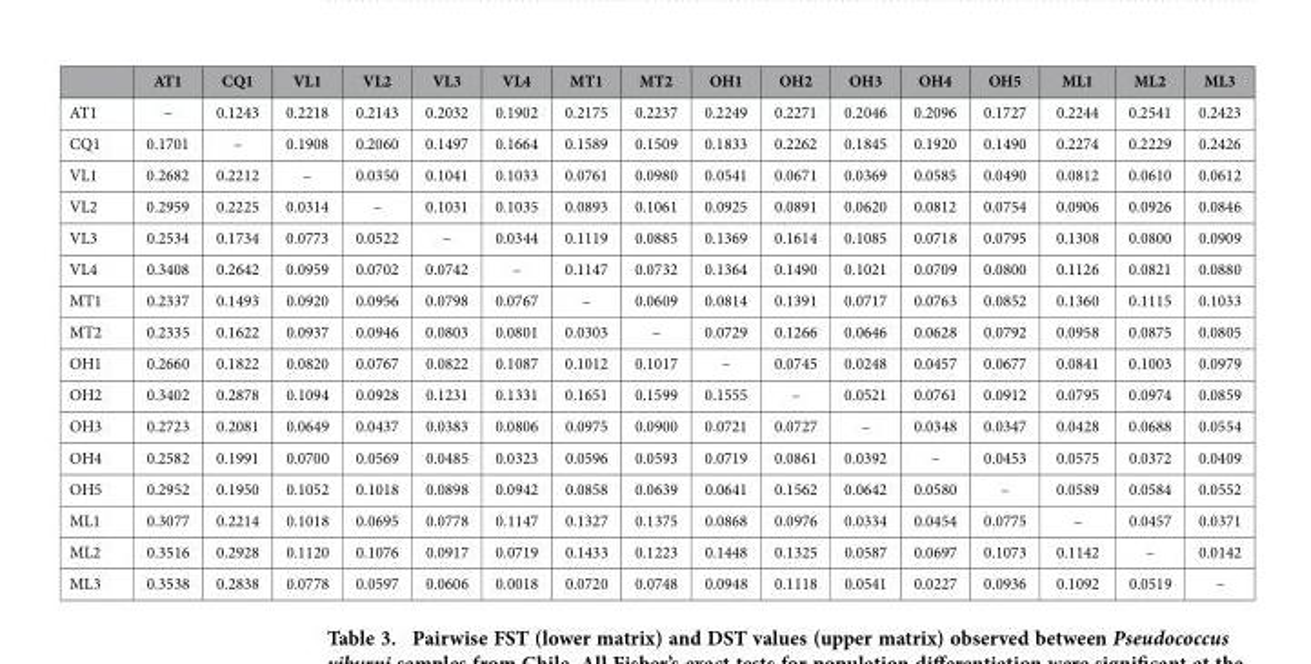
<table><thead><tr><td></td><td>AT1</td><td>CQ1</td><td>VL1</td><td>VL2</td><td>VL3</td><td>VL4</td><td>MT1</td><td>MT2</td><td>OH1</td><td>OH2</td><td>OH3</td><td>OH4</td><td>OH5</td><td>ML1</td><td>ML2</td><td>ML3</td></tr></thead><tbody><tr><td>AT1</td><td>–</td><td>0.1243</td><td>0.2218</td><td>0.2143</td><td>0.2032</td><td>0.1902</td><td>0.2175</td><td>0.2237</td><td>0.2249</td><td>0.2271</td><td>0.2046</td><td>0.2096</td><td>0.1727</td><td>0.2244</td><td>0.2541</td><td>0.2423</td></tr><tr><td>CQ1</td><td>0.1701</td><td>–</td><td>0.1908</td><td>0.2060</td><td>0.1497</td><td>0.1664</td><td>0.1589</td><td>0.1509</td><td>0.1833</td><td>0.2262</td><td>0.1845</td><td>0.1920</td><td>0.1490</td><td>0.2274</td><td>0.2229</td><td>0.2426</td></tr><tr><td>VL1</td><td>0.2682</td><td>0.2212</td><td>–</td><td>0.0350</td><td>0.1041</td><td>0.1033</td><td>0.0761</td><td>0.0980</td><td>0.0541</td><td>0.0671</td><td>0.0369</td><td>0.0585</td><td>0.0490</td><td>0.0812</td><td>0.0610</td><td>0.0612</td></tr><tr><td>VL2</td><td>0.2959</td><td>0.2225</td><td>0.0314</td><td>–</td><td>0.1031</td><td>0.1035</td><td>0.0893</td><td>0.1061</td><td>0.0925</td><td>0.0891</td><td>0.0620</td><td>0.0812</td><td>0.0754</td><td>0.0906</td><td>0.0926</td><td>0.0846</td></tr><tr><td>VL3</td><td>0.2534</td><td>0.1734</td><td>0.0773</td><td>0.0522</td><td>–</td><td>0.0344</td><td>0.1119</td><td>0.0885</td><td>0.1369</td><td>0.1614</td><td>0.1085</td><td>0.0718</td><td>0.0795</td><td>0.1308</td><td>0.0800</td><td>0.0909</td></tr><tr><td>VL4</td><td>0.3408</td><td>0.2642</td><td>0.0959</td><td>0.0702</td><td>0.0742</td><td>–</td><td>0.1147</td><td>0.0732</td><td>0.1364</td><td>0.1490</td><td>0.1021</td><td>0.0709</td><td>0.0800</td><td>0.1126</td><td>0.0821</td><td>0.0880</td></tr><tr><td>MT1</td><td>0.2337</td><td>0.1493</td><td>0.0920</td><td>0.0956</td><td>0.0798</td><td>0.0767</td><td>–</td><td>0.0609</td><td>0.0814</td><td>0.1391</td><td>0.0717</td><td>0.0763</td><td>0.0852</td><td>0.1360</td><td>0.1115</td><td>0.1033</td></tr><tr><td>MT2</td><td>0.2335</td><td>0.1622</td><td>0.0937</td><td>0.0946</td><td>0.0803</td><td>0.0801</td><td>0.0303</td><td>–</td><td>0.0729</td><td>0.1266</td><td>0.0646</td><td>0.0628</td><td>0.0792</td><td>0.0958</td><td>0.0875</td><td>0.0805</td></tr><tr><td>OH1</td><td>0.2660</td><td>0.1822</td><td>0.0820</td><td>0.0767</td><td>0.0822</td><td>0.1087</td><td>0.1012</td><td>0.1017</td><td>–</td><td>0.0745</td><td>0.0248</td><td>0.0457</td><td>0.0677</td><td>0.0841</td><td>0.1003</td><td>0.0979</td></tr><tr><td>OH2</td><td>0.3402</td><td>0.2878</td><td>0.1094</td><td>0.0928</td><td>0.1231</td><td>0.1331</td><td>0.1651</td><td>0.1599</td><td>0.1555</td><td>–</td><td>0.0521</td><td>0.0761</td><td>0.0912</td><td>0.0795</td><td>0.0974</td><td>0.0859</td></tr><tr><td>OH3</td><td>0.2723</td><td>0.2081</td><td>0.0649</td><td>0.0437</td><td>0.0383</td><td>0.0806</td><td>0.0975</td><td>0.0900</td><td>0.0721</td><td>0.0727</td><td>–</td><td>0.0348</td><td>0.0347</td><td>0.0428</td><td>0.0688</td><td>0.0554</td></tr><tr><td>OH4</td><td>0.2582</td><td>0.1991</td><td>0.0700</td><td>0.0569</td><td>0.0485</td><td>0.0323</td><td>0.0596</td><td>0.0593</td><td>0.0719</td><td>0.0861</td><td>0.0392</td><td>–</td><td>0.0453</td><td>0.0575</td><td>0.0372</td><td>0.0409</td></tr><tr><td>OH5</td><td>0.2952</td><td>0.1950</td><td>0.1052</td><td>0.1018</td><td>0.0898</td><td>0.0942</td><td>0.0858</td><td>0.0639</td><td>0.0641</td><td>0.1562</td><td>0.0642</td><td>0.0580</td><td>–</td><td>0.0589</td><td>0.0584</td><td>0.0552</td></tr><tr><td>ML1</td><td>0.3077</td><td>0.2214</td><td>0.1018</td><td>0.0695</td><td>0.0778</td><td>0.1147</td><td>0.1327</td><td>0.1375</td><td>0.0868</td><td>0.0976</td><td>0.0334</td><td>0.0454</td><td>0.0775</td><td>–</td><td>0.0457</td><td>0.0371</td></tr><tr><td>ML2</td><td>0.3516</td><td>0.2928</td><td>0.1120</td><td>0.1076</td><td>0.0917</td><td>0.0719</td><td>0.1433</td><td>0.1223</td><td>0.1448</td><td>0.1325</td><td>0.0587</td><td>0.0697</td><td>0.1073</td><td>0.1142</td><td>–</td><td>0.0142</td></tr><tr><td>ML3</td><td>0.3538</td><td>0.2838</td><td>0.0778</td><td>0.0597</td><td>0.0606</td><td>0.0018</td><td>0.0720</td><td>0.0748</td><td>0.0948</td><td>0.1118</td><td>0.0541</td><td>0.0227</td><td>0.0936</td><td>0.1092</td><td>0.0519</td><td>–</td></tr></tbody></table>